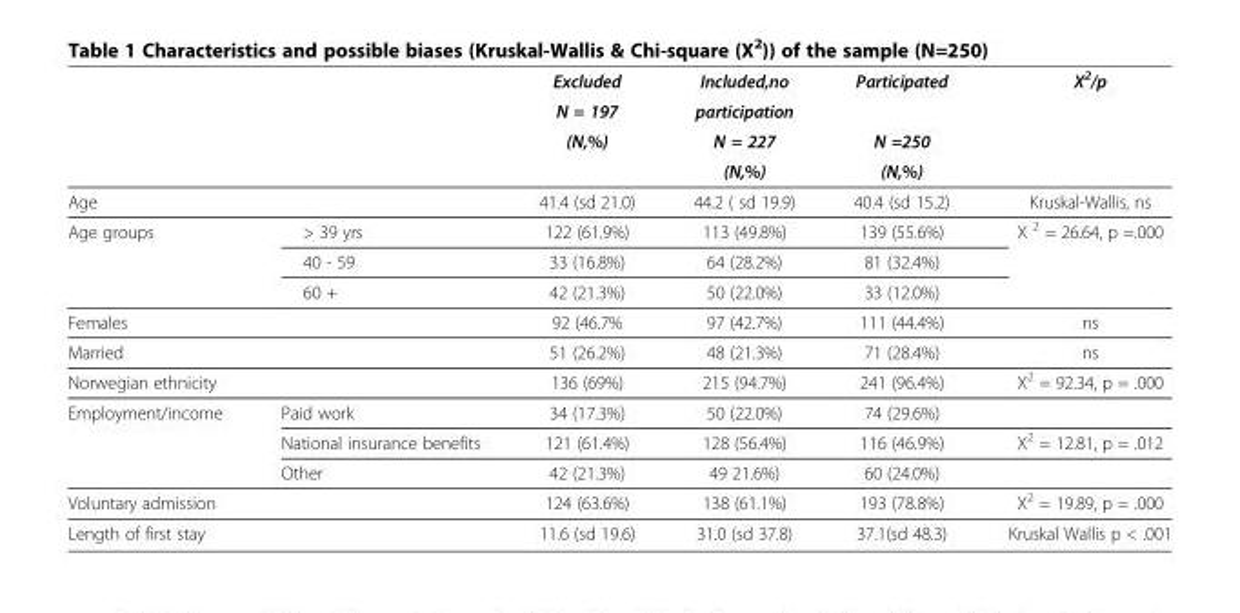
<table><thead><tr><td rowspan="4"></td><td rowspan="4"></td><td rowspan="4">Excluded N = 197 (N,%)</td><td rowspan="4">Included,no participation N = 227 (N,%)</td><td rowspan="4">Participated N =250 (N,%)</td><td rowspan="4">X<sup>2</sup>/p</td></tr><tr></tr><tr></tr><tr></tr></thead><tbody><tr><td colspan="2">Age</td><td>41.4 (sd 21.0)</td><td>44.2 ( sd 19.9)</td><td>40.4 (sd 15.2)</td><td>Kruskal-Wallis, ns</td></tr><tr><td rowspan="3">Age groups</td><td>&gt; 39 yrs</td><td>122 (61.9%)</td><td>113 (49.8%)</td><td>139 (55.6%)</td><td rowspan="3">X <sup>2</sup> = 26.64, p =.000</td></tr><tr><td>40 - 59</td><td>33 (16.8%)</td><td>64 (28.2%)</td><td>81 (32.4%)</td></tr><tr><td>60 +</td><td>42 (21.3%)</td><td>50 (22.0%)</td><td>33 (12.0%)</td></tr><tr><td colspan="2">Females</td><td>92 (46.7%</td><td>97 (42.7%)</td><td>111 (44.4%)</td><td>ns</td></tr><tr><td colspan="2">Married</td><td>51 (26.2%)</td><td>48 (21.3%)</td><td>71 (28.4%)</td><td>ns</td></tr><tr><td colspan="2">Norwegian ethnicity</td><td>136 (69%)</td><td>215 (94.7%)</td><td>241 (96.4%)</td><td>X<sup>2</sup> = 92.34, p = .000</td></tr><tr><td rowspan="3">Employment/income</td><td>Paid work</td><td>34 (17.3%)</td><td>50 (22.0%)</td><td>74 (29.6%)</td><td></td></tr><tr><td>National insurance benefits</td><td>121 (61.4%)</td><td>128 (56.4%)</td><td>116 (46.9%)</td><td>X<sup>2</sup> = 12.81, p = .012</td></tr><tr><td>Other</td><td>42 (21.3%)</td><td>49 21.6%)</td><td>60 (24.0%)</td><td></td></tr><tr><td>Voluntary admission</td><td></td><td>124 (63.6%)</td><td>138 (61.1%)</td><td>193 (78.8%)</td><td>X<sup>2</sup> = 19.89, p = .000</td></tr><tr><td>Length of first stay</td><td></td><td>11.6 (sd 19.6)</td><td>31.0 (sd 37.8)</td><td>37.1(sd 48.3)</td><td>Kruskal Wallis p &lt; .001</td></tr></tbody></table>